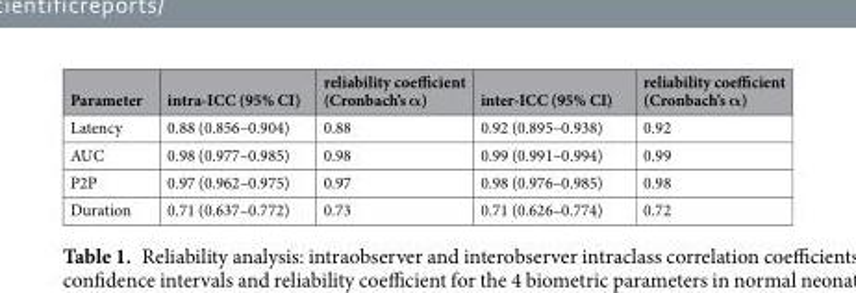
<table><thead><tr><td>Parameter</td><td>intra-ICC (95% CI)</td><td>reliability coefficient (Cronbach’s α)</td><td>inter-ICC (95% CI)</td><td>reliability coefficient (Cronbach’s α)</td></tr></thead><tbody><tr><td>Latency</td><td>0.88 (0.856–0.904)</td><td>0.88</td><td>0.92 (0.895–0.938)</td><td>0.92</td></tr><tr><td>AUC</td><td>0.98 (0.977–0.985)</td><td>0.98</td><td>0.99 (0.991–0.994)</td><td>0.99</td></tr><tr><td>P2P</td><td>0.97 (0.962–0.975)</td><td>0.97</td><td>0.98 (0.976–0.985)</td><td>0.98</td></tr><tr><td>Duration</td><td>0.71 (0.637–0.772)</td><td>0.73</td><td>0.71 (0.626–0.774)</td><td>0.72</td></tr></tbody></table>